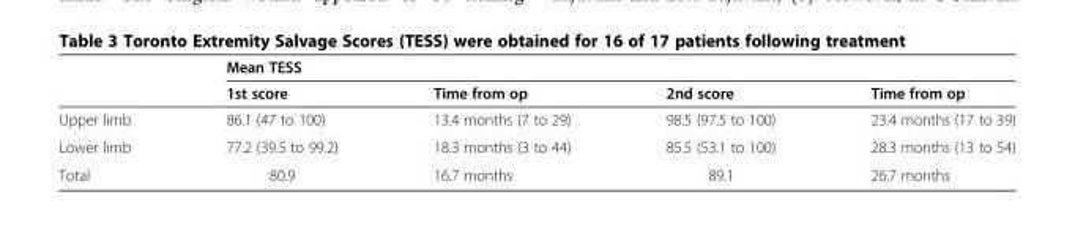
<table><thead><tr><td rowspan="2"></td><td colspan="4">Mean TESS</td></tr><tr><td>1st score</td><td>Time from op</td><td>2nd score</td><td>Time from op</td></tr></thead><tbody><tr><td>Upper limb</td><td>86.1 (47 to 100)</td><td>13.4 months (7 to 29)</td><td>98.5 (97.5 to 100)</td><td>23.4 months (17 to 39)</td></tr><tr><td>Lower limb</td><td>77.2 (39.5 to 99.2)</td><td>18.3 months (3 to 44)</td><td>85.5 (53.1 to 100)</td><td>28.3 months (13 to 54)</td></tr><tr><td>Total</td><td>80.9</td><td>16.7 months</td><td>89.1</td><td>26.7 months</td></tr></tbody></table>